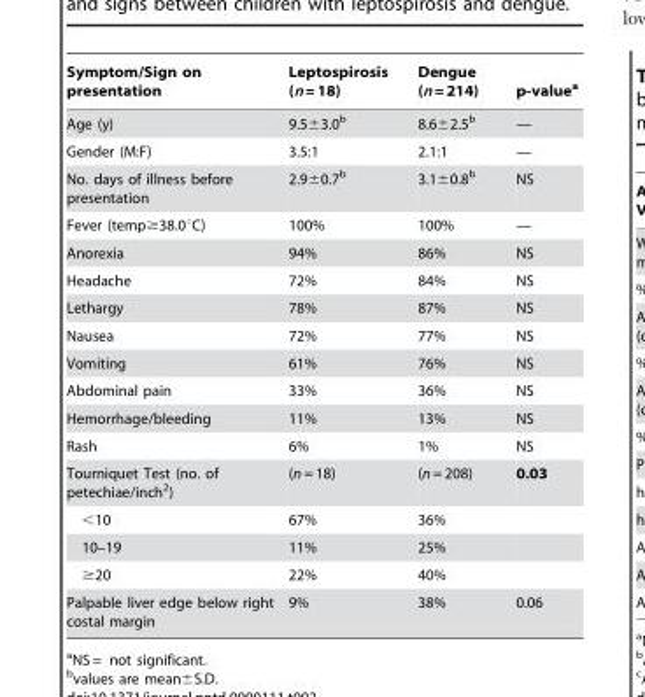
<table><thead><tr><td>Symptom/Sign on presentation</td><td>Leptospirosis (n = 18)</td><td>Dengue (n = 214)</td><td>p-value<sup>a</sup></td></tr></thead><tbody><tr><td>Age (y)</td><td>9.5±3.0<sup>b</sup></td><td>8.6±2.5<sup>b</sup></td><td>—</td></tr><tr><td>Gender (M:F)</td><td>3.5:1</td><td>2.1:1</td><td>—</td></tr><tr><td>No. days of illness before presentation</td><td>2.9±0.7<sup>b</sup></td><td>3.1±0.8<sup>b</sup></td><td>NS</td></tr><tr><td>Fever (temp≥38.0°C)</td><td>100%</td><td>100%</td><td>—</td></tr><tr><td>Anorexia</td><td>94%</td><td>86%</td><td>NS</td></tr><tr><td>Headache</td><td>72%</td><td>84%</td><td>NS</td></tr><tr><td>Lethargy</td><td>78%</td><td>87%</td><td>NS</td></tr><tr><td>Nausea</td><td>72%</td><td>77%</td><td>NS</td></tr><tr><td>Vomiting</td><td>61%</td><td>76%</td><td>NS</td></tr><tr><td>Abdominal pain</td><td>33%</td><td>36%</td><td>NS</td></tr><tr><td>Hemorrhage/bleeding</td><td>11%</td><td>13%</td><td>NS</td></tr><tr><td>Rash</td><td>6%</td><td>1%</td><td>NS</td></tr><tr><td>Tourniquet Test (no. of petechiae/inch<sup>2</sup>)</td><td>(n = 18)</td><td>(n = 208)</td><td>0.03</td></tr><tr><td>&lt;10</td><td>67%</td><td>36%</td><td></td></tr><tr><td>10–19</td><td>11%</td><td>25%</td><td></td></tr><tr><td>≥20</td><td>22%</td><td>40%</td><td></td></tr><tr><td>Palpable liver edge below right costal margin</td><td>9%</td><td>38%</td><td>0.06</td></tr></tbody></table>